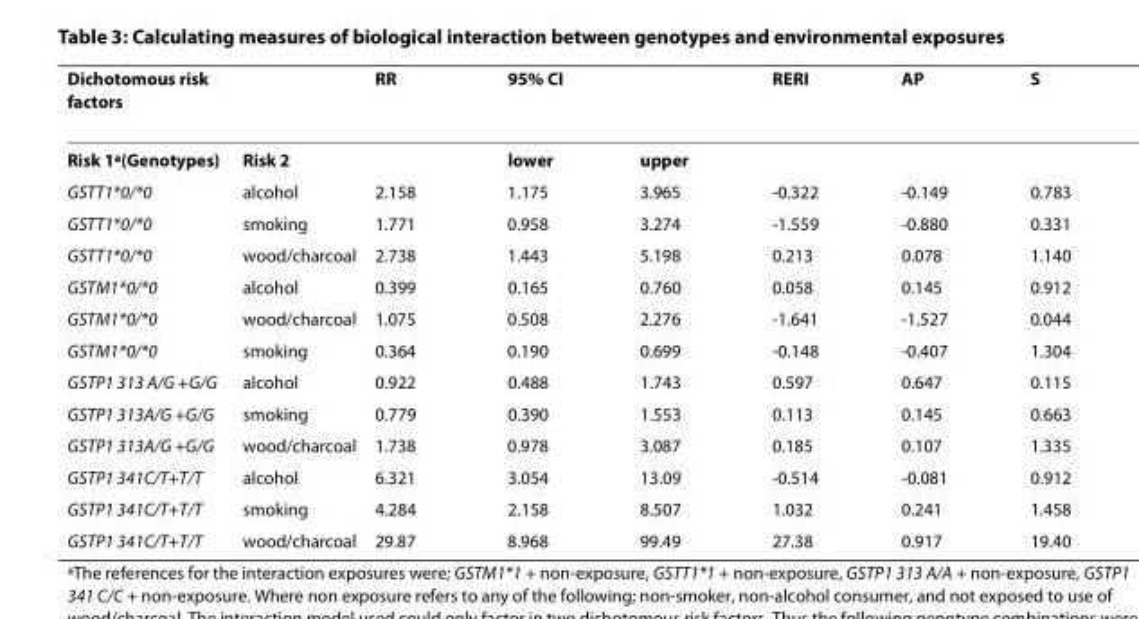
<table><thead><tr><td rowspan="2">Dichotomous risk factors Risk 1<sup>a</sup>(Genotypes)</td><td rowspan="2">Risk 2</td><td rowspan="2">RR</td><td colspan="2">95% CI</td><td rowspan="2">RERI</td><td rowspan="2">AP</td><td rowspan="2">S</td></tr><tr><td>lower</td><td>upper</td></tr></thead><tbody><tr><td>GSTT1*0/*0</td><td>alcohol</td><td>2.158</td><td>1.175</td><td>3.965</td><td>-0.322</td><td>-0.149</td><td>0.783</td></tr><tr><td>GSTT1*0/*0</td><td>smoking</td><td>1.771</td><td>0.958</td><td>3.274</td><td>-1.559</td><td>-0.880</td><td>0.331</td></tr><tr><td>GSTT1*0/*0</td><td>wood/charcoal</td><td>2.738</td><td>1.443</td><td>5.198</td><td>0.213</td><td>0.078</td><td>1.140</td></tr><tr><td>GSTM1*0/*0</td><td>alcohol</td><td>0.399</td><td>0.165</td><td>0.760</td><td>0.058</td><td>0.145</td><td>0.912</td></tr><tr><td>GSTM1*0/*0</td><td>wood/charcoal</td><td>1.075</td><td>0.508</td><td>2.276</td><td>-1.641</td><td>-1.527</td><td>0.044</td></tr><tr><td>GSTM1*0/*0</td><td>smoking</td><td>0.364</td><td>0.190</td><td>0.699</td><td>-0.148</td><td>-0.407</td><td>1.304</td></tr><tr><td>GSTP1 313 A/G +G/G</td><td>alcohol</td><td>0.922</td><td>0.488</td><td>1.743</td><td>0.597</td><td>0.647</td><td>0.115</td></tr><tr><td>GSTP1 313A/G +G/G</td><td>smoking</td><td>0.779</td><td>0.390</td><td>1.553</td><td>0.113</td><td>0.145</td><td>0.663</td></tr><tr><td>GSTP1 313A/G +G/G</td><td>wood/charcoal</td><td>1.738</td><td>0.978</td><td>3.087</td><td>0.185</td><td>0.107</td><td>1.335</td></tr><tr><td>GSTP1 341C/T+T/T</td><td>alcohol</td><td>6.321</td><td>3.054</td><td>13.09</td><td>-0.514</td><td>-0.081</td><td>0.912</td></tr><tr><td>GSTP1 341C/T+T/T</td><td>smoking</td><td>4.284</td><td>2.158</td><td>8.507</td><td>1.032</td><td>0.241</td><td>1.458</td></tr><tr><td>GSTP1 341C/T+T/T</td><td>wood/charcoal</td><td>29.87</td><td>8.968</td><td>99.49</td><td>27.38</td><td>0.917</td><td>19.40</td></tr></tbody></table>